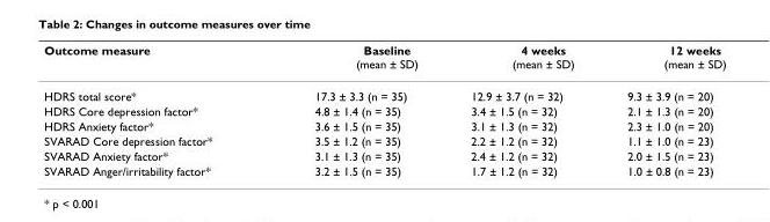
<table><thead><tr><td>Outcome measure</td><td>Baseline (mean ± SD)</td><td>4 weeks (mean ± SD)</td><td>12 weeks (mean ± SD)</td></tr></thead><tbody><tr><td>HDRS total score*</td><td>17.3 ± 3.3 (n = 35)</td><td>12.9 ± 3.7 (n = 32)</td><td>9.3 ± 3.9 (n = 20)</td></tr><tr><td>HDRS Core depression factor*</td><td>4.8 ± 1.4 (n = 35)</td><td>3.4 ± 1.5 (n = 32)</td><td>2.1 ± 1.3 (n = 20)</td></tr><tr><td>HDRS Anxiety factor*</td><td>3.6 ± 1.5 (n = 35)</td><td>3.1 ± 1.3 (n = 32)</td><td>2.3 ± 1.0 (n = 20)</td></tr><tr><td>SVARAD Core depression factor*</td><td>3.5 ± 1.2 (n = 35)</td><td>2.2 ± 1.2 (n = 32)</td><td>1.1 ± 1.0 (n = 23)</td></tr><tr><td>SVARAD Anxiety factor*</td><td>3.1 ± 1.3 (n = 35)</td><td>2.4 ± 1.2 (n = 32)</td><td>2.0 ± 1.5 (n = 23)</td></tr><tr><td>SVARAD Anger/irritability factor*</td><td>3.2 ± 1.5 (n = 35)</td><td>1.7 ± 1.2 (n = 32)</td><td>1.0 ± 0.8 (n = 23)</td></tr></tbody></table>